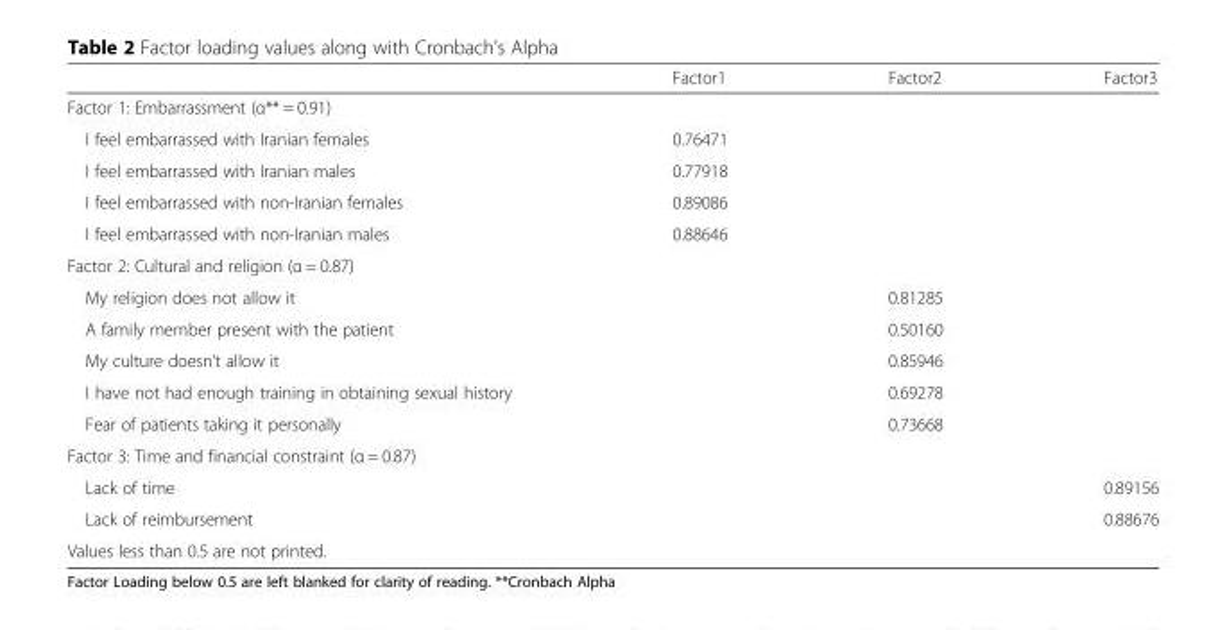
<table><thead><tr><td></td><td>Factor1</td><td>Factor2</td><td>Factor3</td></tr></thead><tbody><tr><td colspan="4">Factor 1: Embarrassment (α** = 0.91)</td></tr><tr><td>I feel embarrassed with Iranian females</td><td>0.76471</td><td></td><td></td></tr><tr><td>I feel embarrassed with Iranian males</td><td>0.77918</td><td></td><td></td></tr><tr><td>I feel embarrassed with non-Iranian females</td><td>0.89086</td><td></td><td></td></tr><tr><td>I feel embarrassed with non-Iranian males</td><td>0.88646</td><td></td><td></td></tr><tr><td colspan="4">Factor 2: Cultural and religion (α = 0.87)</td></tr><tr><td>My religion does not allow it</td><td></td><td>0.81285</td><td></td></tr><tr><td>A family member present with the patient</td><td></td><td>0.50160</td><td></td></tr><tr><td>My culture doesn’t allow it</td><td></td><td>0.85946</td><td></td></tr><tr><td>I have not had enough training in obtaining sexual history</td><td></td><td>0.69278</td><td></td></tr><tr><td>Fear of patients taking it personally</td><td></td><td>0.73668</td><td></td></tr><tr><td colspan="4">Factor 3: Time and financial constraint (α = 0.87)</td></tr><tr><td>Lack of time</td><td></td><td></td><td>0.89156</td></tr><tr><td>Lack of reimbursement</td><td></td><td></td><td>0.88676</td></tr><tr><td colspan="4">Values less than 0.5 are not printed.</td></tr></tbody></table>